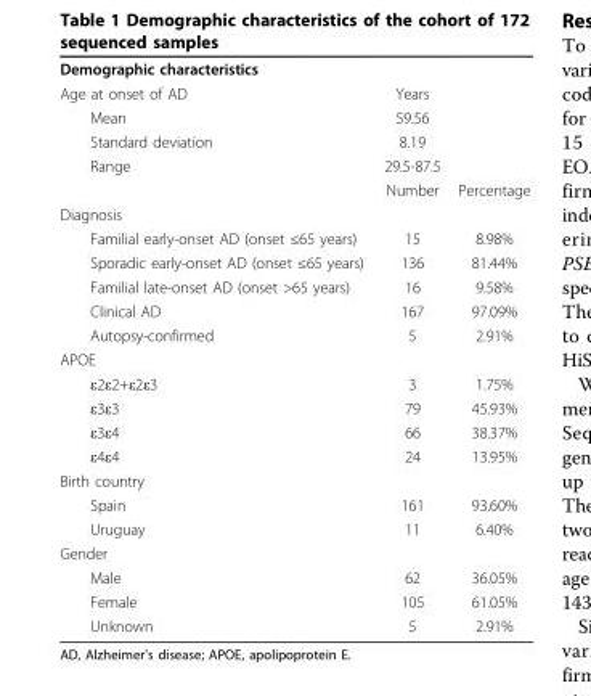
<table><tbody><tr><td colspan="3">Demographic characteristics</td></tr><tr><td>Age at onset of AD</td><td>Years</td><td></td></tr><tr><td>Mean</td><td>59.56</td><td></td></tr><tr><td>Standard deviation</td><td>8.19</td><td></td></tr><tr><td rowspan="2">Range</td><td>29.5-87.5</td><td></td></tr><tr><td>Number</td><td>Percentage</td></tr><tr><td colspan="3">Diagnosis</td></tr><tr><td>Familial early-onset AD (onset ≤65 years)</td><td>15</td><td>8.98%</td></tr><tr><td>Sporadic early-onset AD (onset ≤65 years)</td><td>136</td><td>81.44%</td></tr><tr><td>Familial late-onset AD (onset &gt;65 years)</td><td>16</td><td>9.58%</td></tr><tr><td>Clinical AD</td><td>167</td><td>97.09%</td></tr><tr><td>Autopsy-confirmed</td><td>5</td><td>2.91%</td></tr><tr><td colspan="3">APOE</td></tr><tr><td>ε2ε2+ε2ε3</td><td>3</td><td>1.75%</td></tr><tr><td>ε3ε3</td><td>79</td><td>45.93%</td></tr><tr><td>ε3ε4</td><td>66</td><td>38.37%</td></tr><tr><td>ε4ε4</td><td>24</td><td>13.95%</td></tr><tr><td colspan="3">Birth country</td></tr><tr><td>Spain</td><td>161</td><td>93.60%</td></tr><tr><td>Uruguay</td><td>11</td><td>6.40%</td></tr><tr><td colspan="3">Gender</td></tr><tr><td>Male</td><td>62</td><td>36.05%</td></tr><tr><td>Female</td><td>105</td><td>61.05%</td></tr><tr><td>Unknown</td><td>5</td><td>2.91%</td></tr></tbody></table>